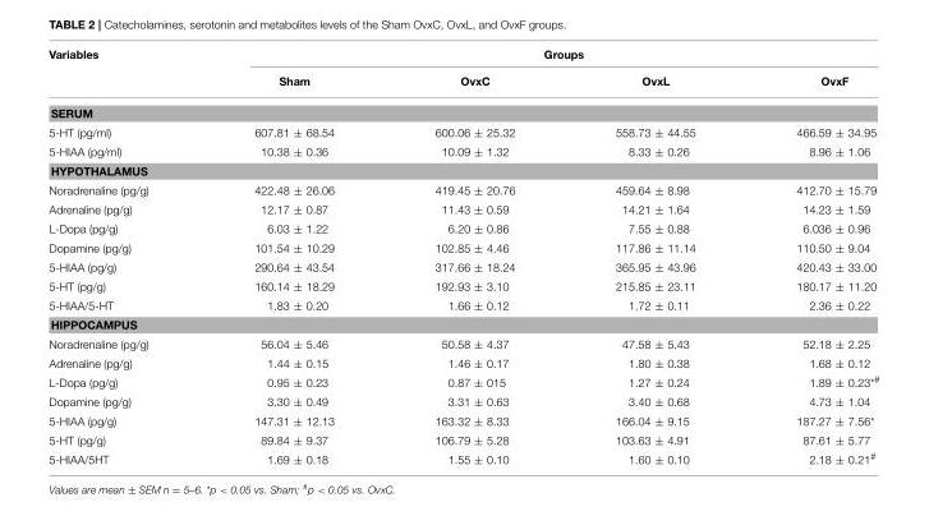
<table><thead><tr><td rowspan="2">Variables</td><td colspan="4">Groups</td></tr><tr><td>Sham</td><td>OvxC</td><td>OvxL</td><td>OvxF</td></tr></thead><tbody><tr><td colspan="5">SERUM</td></tr><tr><td>5-HT (pg/ml)</td><td>607.81 ± 68.54</td><td>600.06 ± 25.32</td><td>558.73 ± 44.55</td><td>466.59 ± 34.95</td></tr><tr><td>5-HIAA (pg/ml)</td><td>10.38 ± 0.36</td><td>10.09 ± 1.32</td><td>8.33 ± 0.26</td><td>8.96 ± 1.06</td></tr><tr><td colspan="5">HYPOTHALAMUS</td></tr><tr><td>Noradrenaline (pg/g)</td><td>422.48 ± 26.06</td><td>419.45 ± 20.76</td><td>459.64 ± 8.98</td><td>412.70 ± 15.79</td></tr><tr><td>Adrenaline (pg/g)</td><td>12.17 ± 0.87</td><td>11.43 ± 0.59</td><td>14.21 ± 1.64</td><td>14.23 ± 1.59</td></tr><tr><td>L-Dopa (pg/g)</td><td>6.03 ± 1.22</td><td>6.20 ± 0.86</td><td>7.55 ± 0.88</td><td>6.036 ± 0.96</td></tr><tr><td>Dopamine (pg/g)</td><td>101.54 ± 10.29</td><td>102.85 ± 4.46</td><td>117.86 ± 11.14</td><td>110.50 ± 9.04</td></tr><tr><td>5-HIAA (pg/g)</td><td>290.64 ± 43.54</td><td>317.66 ± 18.24</td><td>365.95 ± 43.96</td><td>420.43 ± 33.00</td></tr><tr><td>5-HT (pg/g)</td><td>160.14 ± 18.29</td><td>192.93 ± 3.10</td><td>215.85 ± 23.11</td><td>180.17 ± 11.20</td></tr><tr><td>5-HIAA/5-HT</td><td>1.83 ± 0.20</td><td>1.66 ± 0.12</td><td>1.72 ± 0.11</td><td>2.36 ± 0.22</td></tr><tr><td colspan="5">HIPPOCAMPUS</td></tr><tr><td>Noradrenaline (pg/g)</td><td>56.04 ± 5.46</td><td>50.58 ± 4.37</td><td>47.58 ± 5.43</td><td>52.18 ± 2.25</td></tr><tr><td>Adrenaline (pg/g)</td><td>1.44 ± 0.15</td><td>1.46 ± 0.17</td><td>1.80 ± 0.38</td><td>1.68 ± 0.12</td></tr><tr><td>L-Dopa (pg/g)</td><td>0.95 ± 0.23</td><td>0.87 ± 015</td><td>1.27 ± 0.24</td><td>1.89 ± 0.23<sup>*#</sup></td></tr><tr><td>Dopamine (pg/g)</td><td>3.30 ± 0.49</td><td>3.31 ± 0.63</td><td>3.40 ± 0.68</td><td>4.73 ± 1.04</td></tr><tr><td>5-HIAA (pg/g)</td><td>147.31 ± 12.13</td><td>163.32 ± 8.33</td><td>166.04 ± 9.15</td><td>187.27 ± 7.56*</td></tr><tr><td>5-HT (pg/g)</td><td>89.84 ± 9.37</td><td>106.79 ± 5.28</td><td>103.63 ± 4.91</td><td>87.61 ± 5.77</td></tr><tr><td>5-HIAA/5HT</td><td>1.69 ± 0.18</td><td>1.55 ± 0.10</td><td>1.60 ± 0.10</td><td>2.18 ± 0.21<sup>#</sup></td></tr></tbody></table>